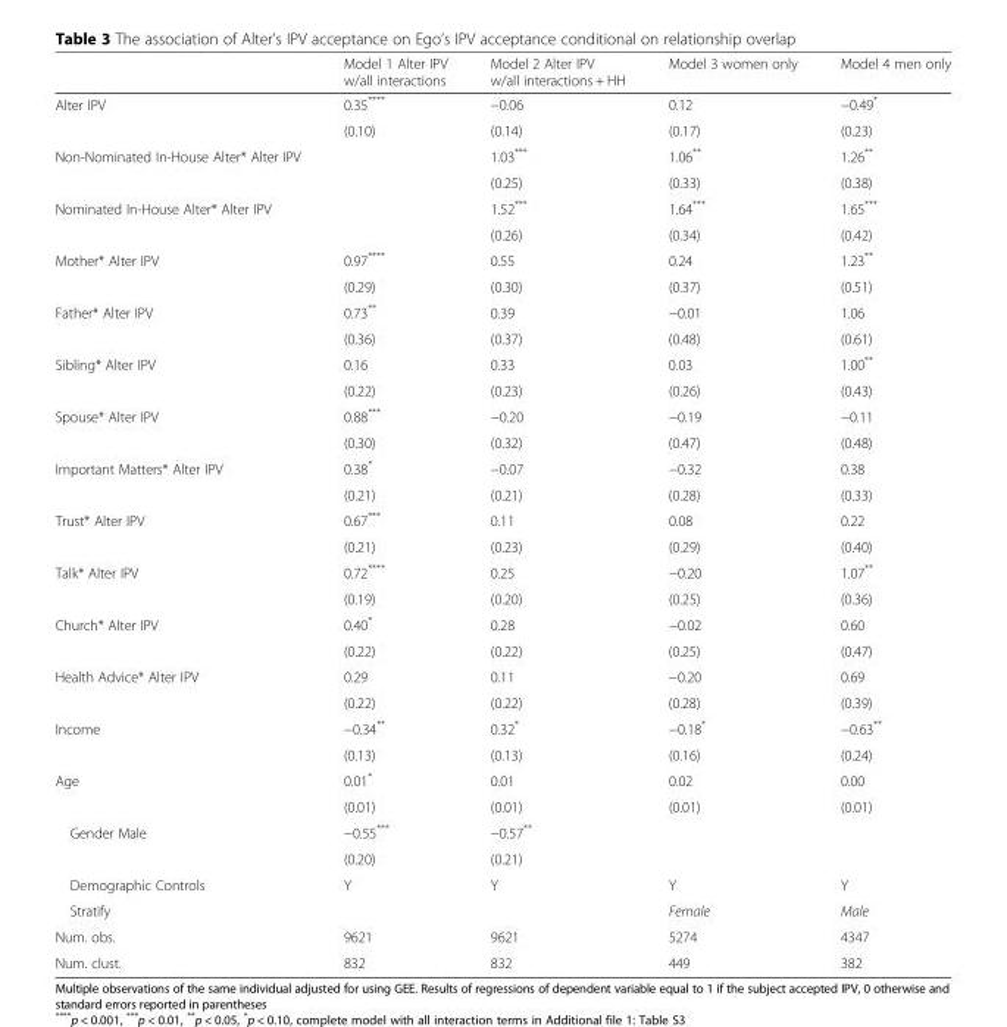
<table><thead><tr><td></td><td>Model 1 Alter IPV w/all interactions</td><td>Model 2 Alter IPV w/all interactions + HH</td><td>Model 3 women only</td><td>Model 4 men only</td></tr></thead><tbody><tr><td rowspan="2">Alter IPV</td><td>0.35****</td><td>−0.06</td><td>0.12</td><td>−0.49*</td></tr><tr><td>(0.10)</td><td>(0.14)</td><td>(0.17)</td><td>(0.23)</td></tr><tr><td rowspan="2">Non-Nominated In-House Alter* Alter IPV</td><td></td><td>1.03***</td><td>1.06**</td><td>1.26**</td></tr><tr><td></td><td>(0.25)</td><td>(0.33)</td><td>(0.38)</td></tr><tr><td rowspan="2">Nominated In-House Alter* Alter IPV</td><td></td><td>1.52***</td><td>1.64***</td><td>1.65***</td></tr><tr><td></td><td>(0.26)</td><td>(0.34)</td><td>(0.42)</td></tr><tr><td rowspan="2">Mother* Alter IPV</td><td>0.97****</td><td>0.55</td><td>0.24</td><td>1.23**</td></tr><tr><td>(0.29)</td><td>(0.30)</td><td>(0.37)</td><td>(0.51)</td></tr><tr><td rowspan="2">Father* Alter IPV</td><td>0.73**</td><td>0.39</td><td>−0.01</td><td>1.06</td></tr><tr><td>(0.36)</td><td>(0.37)</td><td>(0.48)</td><td>(0.61)</td></tr><tr><td rowspan="2">Sibling* Alter IPV</td><td>0.16</td><td>0.33</td><td>0.03</td><td>1.00**</td></tr><tr><td>(0.22)</td><td>(0.23)</td><td>(0.26)</td><td>(0.43)</td></tr><tr><td rowspan="2">Spouse* Alter IPV</td><td>0.88***</td><td>−0.20</td><td>−0.19</td><td>−0.11</td></tr><tr><td>(0.30)</td><td>(0.32)</td><td>(0.47)</td><td>(0.48)</td></tr><tr><td rowspan="2">Important Matters* Alter IPV</td><td>0.38*</td><td>−0.07</td><td>−0.32</td><td>0.38</td></tr><tr><td>(0.21)</td><td>(0.21)</td><td>(0.28)</td><td>(0.33)</td></tr><tr><td rowspan="2">Trust* Alter IPV</td><td>0.67***</td><td>0.11</td><td>0.08</td><td>0.22</td></tr><tr><td>(0.21)</td><td>(0.23)</td><td>(0.29)</td><td>(0.40)</td></tr><tr><td rowspan="2">Talk* Alter IPV</td><td>0.72****</td><td>0.25</td><td>−0.20</td><td>1.07**</td></tr><tr><td>(0.19)</td><td>(0.20)</td><td>(0.25)</td><td>(0.36)</td></tr><tr><td rowspan="2">Church* Alter IPV</td><td>0.40*</td><td>0.28</td><td>−0.02</td><td>0.60</td></tr><tr><td>(0.22)</td><td>(0.22)</td><td>(0.25)</td><td>(0.47)</td></tr><tr><td rowspan="2">Health Advice* Alter IPV</td><td>0.29</td><td>0.11</td><td>−0.20</td><td>0.69</td></tr><tr><td>(0.22)</td><td>(0.22)</td><td>(0.28)</td><td>(0.39)</td></tr><tr><td rowspan="2">Income</td><td>−0.34**</td><td>0.32*</td><td>−0.18*</td><td>−0.63**</td></tr><tr><td>(0.13)</td><td>(0.13)</td><td>(0.16)</td><td>(0.24)</td></tr><tr><td rowspan="2">Age</td><td>0.01*</td><td>0.01</td><td>0.02</td><td>0.00</td></tr><tr><td>(0.01)</td><td>(0.01)</td><td>(0.01)</td><td>(0.01)</td></tr><tr><td rowspan="2">Gender Male</td><td>−0.55***</td><td>−0.57**</td><td></td><td></td></tr><tr><td>(0.20)</td><td>(0.21)</td><td></td><td></td></tr><tr><td>Demographic Controls</td><td>Y</td><td>Y</td><td>Y</td><td>Y</td></tr><tr><td>Stratify</td><td></td><td></td><td>Female</td><td>Male</td></tr><tr><td>Num. obs.</td><td>9621</td><td>9621</td><td>5274</td><td>4347</td></tr><tr><td>Num. clust.</td><td>832</td><td>832</td><td>449</td><td>382</td></tr></tbody></table>